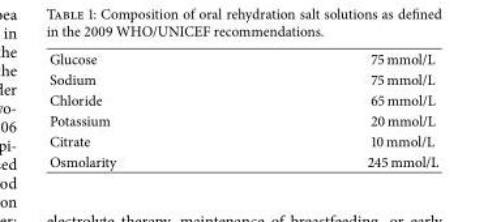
<table><tbody><tr><td>Glucose</td><td>75 mmol/L</td></tr><tr><td>Sodium</td><td>75 mmol/L</td></tr><tr><td>Chloride</td><td>65 mmol/L</td></tr><tr><td>Potassium</td><td>20 mmol/L</td></tr><tr><td>Citrate</td><td>10 mmol/L</td></tr><tr><td>Osmolarity</td><td>245 mmol/L</td></tr></tbody></table>